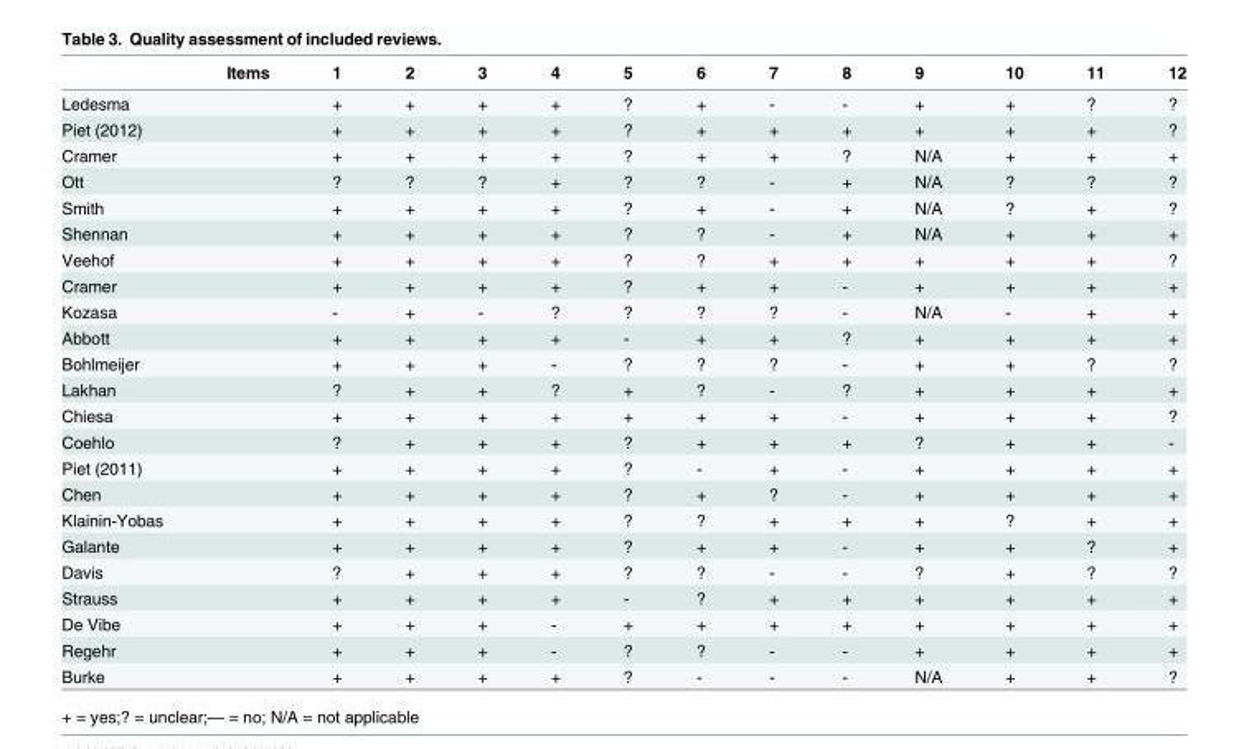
<table><thead><tr><td></td><td>Items</td><td>1</td><td>2</td><td>3</td><td>4</td><td>5</td><td>6</td><td>7</td><td>8</td><td>9</td><td>10</td><td>11</td><td>12</td></tr></thead><tbody><tr><td>Ledesma</td><td></td><td>+</td><td>+</td><td>+</td><td>+</td><td>?</td><td>+</td><td>-</td><td>-</td><td>+</td><td>+</td><td>?</td><td>?</td></tr><tr><td>Piet (2012)</td><td></td><td>+</td><td>+</td><td>+</td><td>+</td><td>?</td><td>+</td><td>+</td><td>+</td><td>+</td><td>+</td><td>+</td><td>?</td></tr><tr><td>Cramer</td><td></td><td>+</td><td>+</td><td>+</td><td>+</td><td>?</td><td>+</td><td>+</td><td>?</td><td>N/A</td><td>+</td><td>+</td><td>+</td></tr><tr><td>Ott</td><td></td><td>?</td><td>?</td><td>?</td><td>+</td><td>?</td><td>?</td><td>-</td><td>+</td><td>N/A</td><td>?</td><td>?</td><td>?</td></tr><tr><td>Smith</td><td></td><td>+</td><td>+</td><td>+</td><td>+</td><td>?</td><td>+</td><td>-</td><td>+</td><td>N/A</td><td>?</td><td>+</td><td>?</td></tr><tr><td>Shennan</td><td></td><td>+</td><td>+</td><td>+</td><td>+</td><td>?</td><td>?</td><td>-</td><td>+</td><td>N/A</td><td>+</td><td>+</td><td>+</td></tr><tr><td>Veehof</td><td></td><td>+</td><td>+</td><td>+</td><td>+</td><td>?</td><td>?</td><td>+</td><td>+</td><td>+</td><td>+</td><td>+</td><td>?</td></tr><tr><td>Cramer</td><td></td><td>+</td><td>+</td><td>+</td><td>+</td><td>?</td><td>+</td><td>+</td><td>-</td><td>+</td><td>+</td><td>+</td><td>+</td></tr><tr><td>Kozasa</td><td></td><td>-</td><td>+</td><td>-</td><td>?</td><td>?</td><td>?</td><td>?</td><td>-</td><td>N/A</td><td>-</td><td>+</td><td>+</td></tr><tr><td>Abbott</td><td></td><td>+</td><td>+</td><td>+</td><td>+</td><td>-</td><td>+</td><td>+</td><td>?</td><td>+</td><td>+</td><td>+</td><td>+</td></tr><tr><td>Bohlmeijer</td><td></td><td>+</td><td>+</td><td>+</td><td>-</td><td>?</td><td>?</td><td>?</td><td>-</td><td>+</td><td>+</td><td>?</td><td>?</td></tr><tr><td>Lakhan</td><td></td><td>?</td><td>+</td><td>+</td><td>?</td><td>+</td><td>?</td><td>-</td><td>?</td><td>+</td><td>+</td><td>+</td><td>+</td></tr><tr><td>Chiesa</td><td></td><td>+</td><td>+</td><td>+</td><td>+</td><td>+</td><td>+</td><td>+</td><td>-</td><td>+</td><td>+</td><td>+</td><td>?</td></tr><tr><td>Coehlo</td><td></td><td>?</td><td>+</td><td>+</td><td>+</td><td>?</td><td>+</td><td>+</td><td>+</td><td>?</td><td>+</td><td>+</td><td>-</td></tr><tr><td>Piet (2011)</td><td></td><td>+</td><td>+</td><td>+</td><td>+</td><td>?</td><td>-</td><td>+</td><td>-</td><td>+</td><td>+</td><td>+</td><td>+</td></tr><tr><td>Chen</td><td></td><td>+</td><td>+</td><td>+</td><td>+</td><td>?</td><td>+</td><td>?</td><td>-</td><td>+</td><td>+</td><td>+</td><td>+</td></tr><tr><td>Klainin-Yobas</td><td></td><td>+</td><td>+</td><td>+</td><td>+</td><td>?</td><td>?</td><td>+</td><td>+</td><td>+</td><td>?</td><td>+</td><td>+</td></tr><tr><td>Galante</td><td></td><td>+</td><td>+</td><td>+</td><td>+</td><td>?</td><td>+</td><td>+</td><td>-</td><td>+</td><td>+</td><td>?</td><td>+</td></tr><tr><td>Davis</td><td></td><td>?</td><td>+</td><td>+</td><td>+</td><td>?</td><td>?</td><td>-</td><td>-</td><td>?</td><td>+</td><td>?</td><td>?</td></tr><tr><td>Strauss</td><td></td><td>+</td><td>+</td><td>+</td><td>+</td><td>-</td><td>?</td><td>+</td><td>+</td><td>+</td><td>+</td><td>+</td><td>+</td></tr><tr><td>De Vibe</td><td></td><td>+</td><td>+</td><td>+</td><td>-</td><td>+</td><td>+</td><td>+</td><td>+</td><td>+</td><td>+</td><td>+</td><td>+</td></tr><tr><td>Regehr</td><td></td><td>+</td><td>+</td><td>+</td><td>-</td><td>?</td><td>?</td><td>-</td><td>-</td><td>+</td><td>+</td><td>+</td><td>+</td></tr><tr><td>Burke</td><td></td><td>+</td><td>+</td><td>+</td><td>+</td><td>?</td><td>-</td><td>-</td><td>-</td><td>N/A</td><td>+</td><td>+</td><td>?</td></tr></tbody></table>